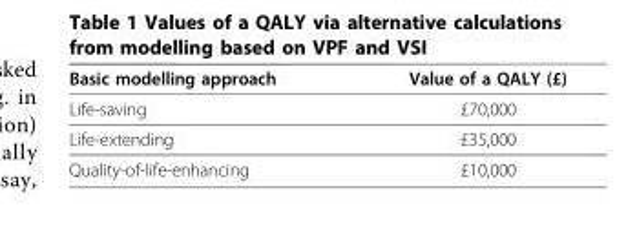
<table><thead><tr><td>Basic modelling approach</td><td>Value of a QALY (£)</td></tr></thead><tbody><tr><td>Life-saving</td><td>£70,000</td></tr><tr><td>Life-extending</td><td>£35,000</td></tr><tr><td>Quality-of-life-enhancing</td><td>£10,000</td></tr></tbody></table>